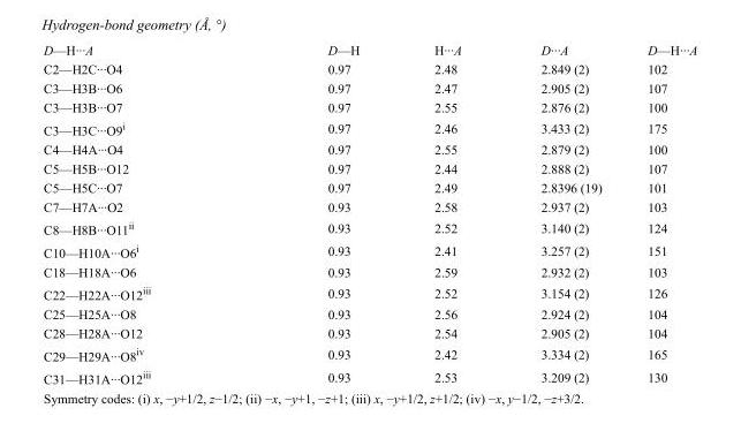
<table><tbody><tr><td>D—H···A</td><td>D—H</td><td>H···A</td><td>D···A</td><td>D—H···A</td></tr><tr><td>C2—H2C···O4</td><td>0.97</td><td>2.48</td><td>2.849 (2)</td><td>102</td></tr><tr><td>C3—H3B···O6</td><td>0.97</td><td>2.47</td><td>2.905 (2)</td><td>107</td></tr><tr><td>C3—H3B···O7</td><td>0.97</td><td>2.55</td><td>2.876 (2)</td><td>100</td></tr><tr><td>C3—H3C···O9<sup>i</sup></td><td>0.97</td><td>2.46</td><td>3.433 (2)</td><td>175</td></tr><tr><td>C4—H4A···O4</td><td>0.97</td><td>2.55</td><td>2.879 (2)</td><td>100</td></tr><tr><td>C5—H5B···O12</td><td>0.97</td><td>2.44</td><td>2.888 (2)</td><td>107</td></tr><tr><td>C5—H5C···O7</td><td>0.97</td><td>2.49</td><td>2.8396 (19)</td><td>101</td></tr><tr><td>C7—H7A···O2</td><td>0.93</td><td>2.58</td><td>2.937 (2)</td><td>103</td></tr><tr><td>C8—H8B···O11<sup>ii</sup></td><td>0.93</td><td>2.52</td><td>3.140 (2)</td><td>124</td></tr><tr><td>C10—H10A···O6<sup>i</sup></td><td>0.93</td><td>2.41</td><td>3.257 (2)</td><td>151</td></tr><tr><td>C18—H18A···O6</td><td>0.93</td><td>2.59</td><td>2.932 (2)</td><td>103</td></tr><tr><td>C22—H22A···O12<sup>iii</sup></td><td>0.93</td><td>2.52</td><td>3.154 (2)</td><td>126</td></tr><tr><td>C25—H25A···O8</td><td>0.93</td><td>2.56</td><td>2.924 (2)</td><td>104</td></tr><tr><td>C28—H28A···O12</td><td>0.93</td><td>2.54</td><td>2.905 (2)</td><td>104</td></tr><tr><td>C29—H29A···O8<sup>iv</sup></td><td>0.93</td><td>2.42</td><td>3.334 (2)</td><td>165</td></tr><tr><td>C31—H31A···O12<sup>iii</sup></td><td>0.93</td><td>2.53</td><td>3.209 (2)</td><td>130</td></tr></tbody></table>